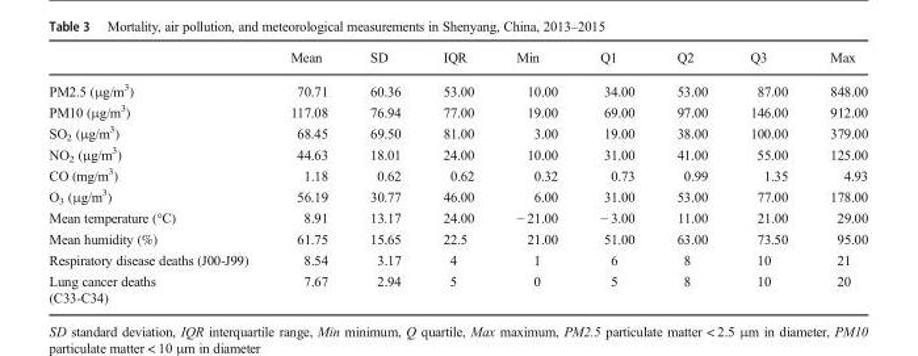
<table><thead><tr><td></td><td>Mean</td><td>SD</td><td>IQR</td><td>Min</td><td>Q1</td><td>Q2</td><td>Q3</td><td>Max</td></tr></thead><tbody><tr><td>PM2.5 (μg/m<sup>3</sup>)</td><td>70.71</td><td>60.36</td><td>53.00</td><td>10.00</td><td>34.00</td><td>53.00</td><td>87.00</td><td>848.00</td></tr><tr><td>PM10 (μg/m<sup>3</sup>)</td><td>117.08</td><td>76.94</td><td>77.00</td><td>19.00</td><td>69.00</td><td>97.00</td><td>146.00</td><td>912.00</td></tr><tr><td>SO<sub>2</sub> (μg/m<sup>3</sup>)</td><td>68.45</td><td>69.50</td><td>81.00</td><td>3.00</td><td>19.00</td><td>38.00</td><td>100.00</td><td>379.00</td></tr><tr><td>NO<sub>2</sub> (μg/m<sup>3</sup>)</td><td>44.63</td><td>18.01</td><td>24.00</td><td>10.00</td><td>31.00</td><td>41.00</td><td>55.00</td><td>125.00</td></tr><tr><td>CO (mg/m<sup>3</sup>)</td><td>1.18</td><td>0.62</td><td>0.62</td><td>0.32</td><td>0.73</td><td>0.99</td><td>1.35</td><td>4.93</td></tr><tr><td>O<sub>3</sub> (μg/m<sup>3</sup>)</td><td>56.19</td><td>30.77</td><td>46.00</td><td>6.00</td><td>31.00</td><td>53.00</td><td>77.00</td><td>178.00</td></tr><tr><td>Mean temperature (°C)</td><td>8.91</td><td>13.17</td><td>24.00</td><td>− 21.00</td><td>− 3.00</td><td>11.00</td><td>21.00</td><td>29.00</td></tr><tr><td>Mean humidity (%)</td><td>61.75</td><td>15.65</td><td>22.5</td><td>21.00</td><td>51.00</td><td>63.00</td><td>73.50</td><td>95.00</td></tr><tr><td>Respiratory disease deaths (J00-J99)</td><td>8.54</td><td>3.17</td><td>4</td><td>1</td><td>6</td><td>8</td><td>10</td><td>21</td></tr><tr><td>Lung cancer deaths (C33-C34)</td><td>7.67</td><td>2.94</td><td>5</td><td>0</td><td>5</td><td>8</td><td>10</td><td>20</td></tr></tbody></table>